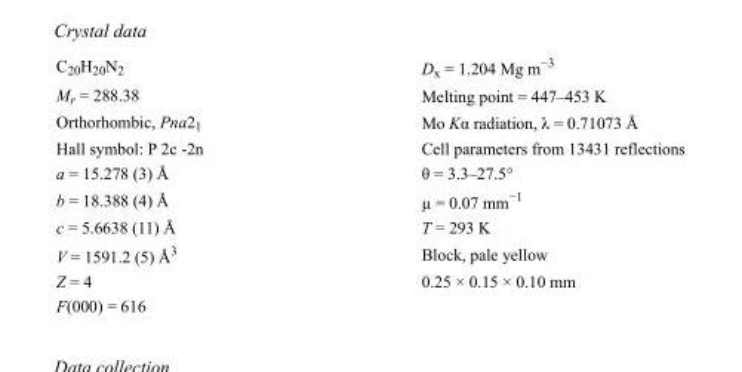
<table><tbody><tr><td>C<sub>20</sub>H<sub>20</sub>N<sub>2</sub></td><td>D<sub>x</sub> = 1.204 Mg m<sup>−3</sup></td></tr><tr><td>M<sub>r</sub> = 288.38</td><td>Melting point = 447–453 K</td></tr><tr><td>Orthorhombic, Pna2<sub>1</sub></td><td>Mo Kα radiation, λ = 0.71073 Å</td></tr><tr><td>Hall symbol: P 2c -2n</td><td>Cell parameters from 13431 reflections</td></tr><tr><td>a = 15.278 (3) Å</td><td>θ = 3.3–27.5°</td></tr><tr><td>b = 18.388 (4) Å</td><td>µ = 0.07 mm<sup>−1</sup></td></tr><tr><td>c = 5.6638 (11) Å</td><td>T = 293 K</td></tr><tr><td>V = 1591.2 (5) Å<sup>3</sup></td><td>Block, pale yellow</td></tr><tr><td>Z = 4</td><td>0.25 × 0.15 × 0.10 mm</td></tr><tr><td>F(000) = 616</td><td></td></tr></tbody></table>